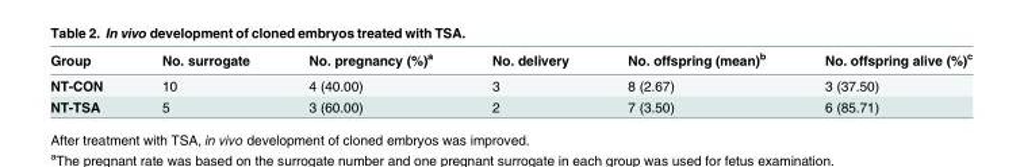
<table><thead><tr><td>Group</td><td>No. surrogate</td><td>No. pregnancy (%)<sup>a</sup></td><td>No. delivery</td><td>No. offspring (mean)<sup>b</sup></td><td>No. offspring alive (%)<sup>c</sup></td></tr></thead><tbody><tr><td>NT-CON</td><td>10</td><td>4 (40.00)</td><td>3</td><td>8 (2.67)</td><td>3 (37.50)</td></tr><tr><td>NT-TSA</td><td>5</td><td>3 (60.00)</td><td>2</td><td>7 (3.50)</td><td>6 (85.71)</td></tr></tbody></table>